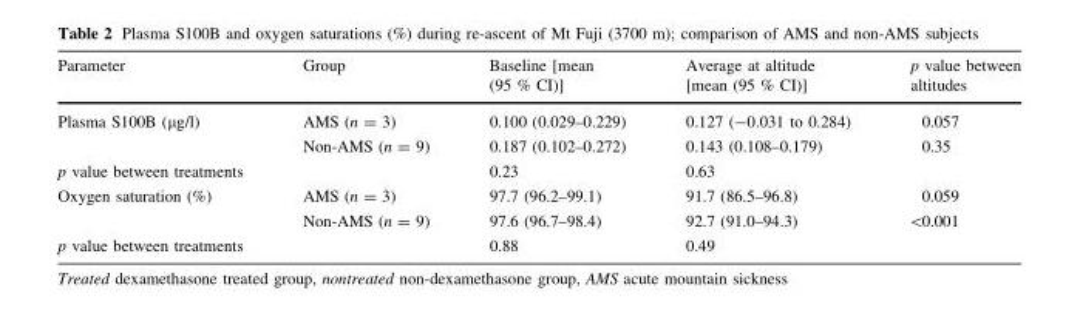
<table><thead><tr><td>Parameter</td><td>Group</td><td>Baseline [mean (95 % CI)]</td><td>Average at altitude [mean (95 % CI)]</td><td>p value between altitudes</td></tr></thead><tbody><tr><td rowspan="2">Plasma S100B (µg/l)</td><td>AMS (n = 3)</td><td>0.100 (0.029–0.229)</td><td>0.127 (-0.031 to 0.284)</td><td>0.057</td></tr><tr><td>Non-AMS (n = 9)</td><td>0.187 (0.102–0.272)</td><td>0.143 (0.108–0.179)</td><td>0.35</td></tr><tr><td>p value between treatments</td><td></td><td>0.23</td><td>0.63</td><td></td></tr><tr><td rowspan="2">Oxygen saturation (%)</td><td>AMS (n = 3)</td><td>97.7 (96.2–99.1)</td><td>91.7 (86.5–96.8)</td><td>0.059</td></tr><tr><td>Non-AMS (n = 9)</td><td>97.6 (96.7–98.4)</td><td>92.7 (91.0–94.3)</td><td>&lt;0.001</td></tr><tr><td>p value between treatments</td><td></td><td>0.88</td><td>0.49</td><td></td></tr></tbody></table>